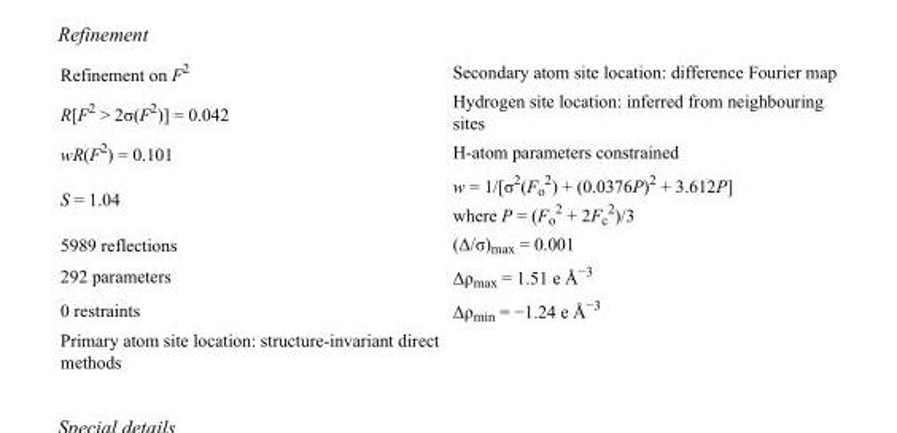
<table><tbody><tr><td>Refinement on F<sup>2</sup></td><td>Secondary atom site location: difference Fourier map</td></tr><tr><td>R[F<sup>2</sup> &gt; 2σ(F<sup>2</sup>)] = 0.042</td><td>Hydrogen site location: inferred from neighbouring sites</td></tr><tr><td>wR(F<sup>2</sup>) = 0.101</td><td>H-atom parameters constrained</td></tr><tr><td>S = 1.04</td><td>w = 1/[σ<sup>2</sup>(F<sub>o</sub> <sup>2</sup>) + (0.0376P)<sup>2</sup> + 3.612P] where P = (F<sub>o</sub> <sup>2</sup> + 2F<sub>c</sub> <sup>2</sup>)/3</td></tr><tr><td>5989 reflections</td><td>(Δ/σ)<sub>max</sub> = 0.001</td></tr><tr><td>292 parameters</td><td>Δρ<sub>max</sub> = 1.51 e Å<sup>−3</sup></td></tr><tr><td>0 restraints</td><td>Δρ<sub>min</sub> = −1.24 e Å<sup>−3</sup></td></tr><tr><td>Primary atom site location: structure-invariant direct methods</td><td></td></tr></tbody></table>